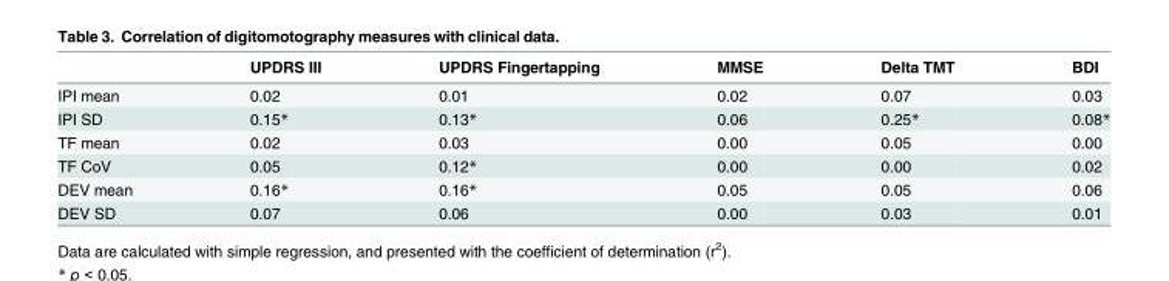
<table><thead><tr><td></td><td>UPDRS III</td><td>UPDRS Fingertapping</td><td>MMSE</td><td>Delta TMT</td><td>BDI</td></tr></thead><tbody><tr><td>IPI mean</td><td>0.02</td><td>0.01</td><td>0.02</td><td>0.07</td><td>0.03</td></tr><tr><td>IPI SD</td><td>0.15*</td><td>0.13*</td><td>0.06</td><td>0.25*</td><td>0.08*</td></tr><tr><td>TF mean</td><td>0.02</td><td>0.03</td><td>0.00</td><td>0.05</td><td>0.00</td></tr><tr><td>TF CoV</td><td>0.05</td><td>0.12*</td><td>0.00</td><td>0.00</td><td>0.02</td></tr><tr><td>DEV mean</td><td>0.16*</td><td>0.16*</td><td>0.05</td><td>0.05</td><td>0.06</td></tr><tr><td>DEV SD</td><td>0.07</td><td>0.06</td><td>0.00</td><td>0.03</td><td>0.01</td></tr></tbody></table>